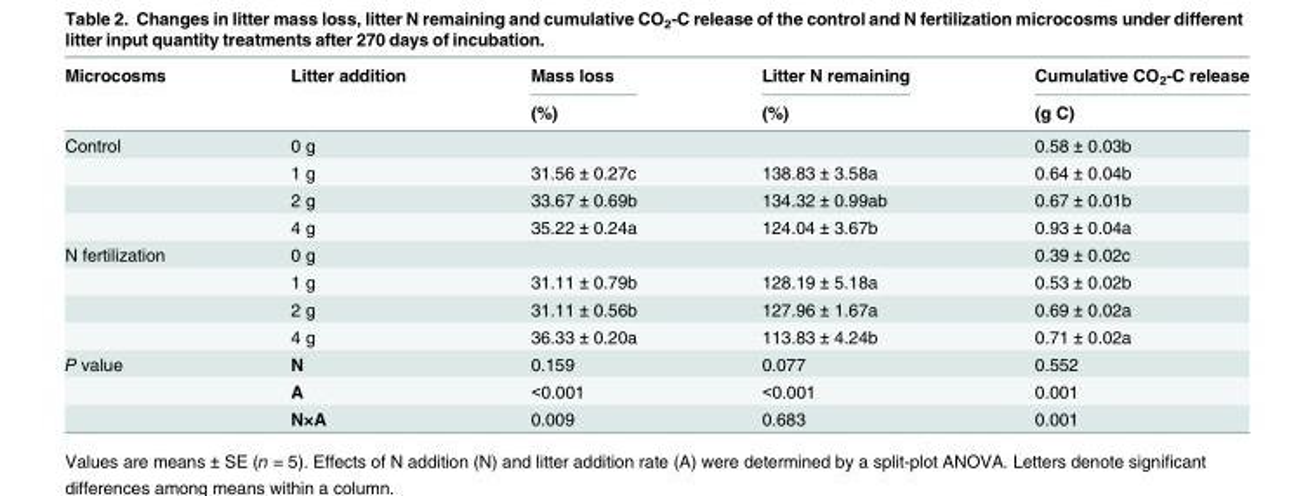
<table><thead><tr><td rowspan="2">Microcosms</td><td rowspan="2">Litter addition</td><td rowspan="2">Mass loss (%)</td><td rowspan="2">Litter N remaining (%)</td><td rowspan="2">Cumulative CO<sub>2</sub>-C release (g C)</td></tr><tr></tr></thead><tbody><tr><td rowspan="4">Control</td><td>0 g</td><td></td><td></td><td>0.58 ± 0.03b</td></tr><tr><td>1 g</td><td>31.56 ± 0.27c</td><td>138.83 ± 3.58a</td><td>0.64 ± 0.04b</td></tr><tr><td>2 g</td><td>33.67 ± 0.69b</td><td>134.32 ± 0.99ab</td><td>0.67 ± 0.01b</td></tr><tr><td>4 g</td><td>35.22 ± 0.24a</td><td>124.04 ± 3.67b</td><td>0.93 ± 0.04a</td></tr><tr><td rowspan="4">N fertilization</td><td>0 g</td><td></td><td></td><td>0.39 ± 0.02c</td></tr><tr><td>1 g</td><td>31.11 ± 0.79b</td><td>128.19 ± 5.18a</td><td>0.53 ± 0.02b</td></tr><tr><td>2 g</td><td>31.11 ± 0.56b</td><td>127.96 ± 1.67a</td><td>0.69 ± 0.02a</td></tr><tr><td>4 g</td><td>36.33 ± 0.20a</td><td>113.83 ± 4.24b</td><td>0.71 ± 0.02a</td></tr><tr><td rowspan="3">P value</td><td>N</td><td>0.159</td><td>0.077</td><td>0.552</td></tr><tr><td>A</td><td>&lt;0.001</td><td>&lt;0.001</td><td>0.001</td></tr><tr><td>N×A</td><td>0.009</td><td>0.683</td><td>0.001</td></tr></tbody></table>